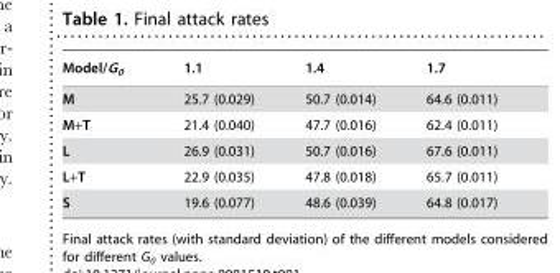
<table><thead><tr><td>Model/G<sub>0</sub></td><td>1.1</td><td>1.4</td><td>1.7</td></tr></thead><tbody><tr><td>M</td><td>25.7 (0.029)</td><td>50.7 (0.014)</td><td>64.6 (0.011)</td></tr><tr><td>M+T</td><td>21.4 (0.040)</td><td>47.7 (0.016)</td><td>62.4 (0.011)</td></tr><tr><td>L</td><td>26.9 (0.031)</td><td>50.7 (0.016)</td><td>67.6 (0.011)</td></tr><tr><td>L+T</td><td>22.9 (0.035)</td><td>47.8 (0.018)</td><td>65.7 (0.011)</td></tr><tr><td>S</td><td>19.6 (0.077)</td><td>48.6 (0.039)</td><td>64.8 (0.017)</td></tr></tbody></table>